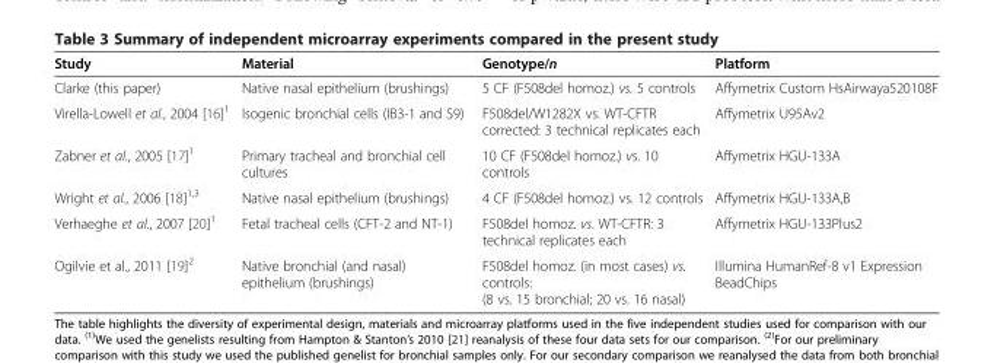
<table><thead><tr><td>Study</td><td>Material</td><td>Genotype/n</td><td>Platform</td></tr></thead><tbody><tr><td>Clarke (this paper)</td><td>Native nasal epithelium (brushings)</td><td>5 CF (F508del homoz.) vs. 5 controls</td><td>Affymetrix Custom HsAirwaya520108F</td></tr><tr><td>Virella-Lowell et al., 2004 [16]<sup>1</sup></td><td>Isogenic bronchial cells (IB3-1 and S9)</td><td>F508del/W1282X vs. WT-CFTR corrected: 3 technical replicates each</td><td>Affymetrix U95Av2</td></tr><tr><td>Zabner et al., 2005 [17]<sup>1</sup></td><td>Primary tracheal and bronchial cell cultures</td><td>10 CF (F508del homoz.) vs. 10 controls</td><td>Affymetrix HGU-133A</td></tr><tr><td>Wright et al., 2006 [18]<sup>1,3</sup></td><td>Native nasal epithelium (brushings)</td><td>4 CF (F508del homoz.) vs. 12 controls</td><td>Affymetrix HGU-133A,B</td></tr><tr><td>Verhaeghe et al., 2007 [20]<sup>1</sup></td><td>Fetal tracheal cells (CFT-2 and NT-1)</td><td>F508del homoz. vs. WT-CFTR: 3 technical replicates each</td><td>Affymetrix HGU-133Plus2</td></tr><tr><td>Ogilvie et al., 2011 [19]<sup>2</sup></td><td>Native bronchial (and nasal) epithelium (brushings)</td><td>F508del homoz. (in most cases) vs. controls: (8 vs. 15 bronchial; 20 vs. 16 nasal)</td><td>Illumina HumanRef-8 v1 Expression BeadChips</td></tr></tbody></table>